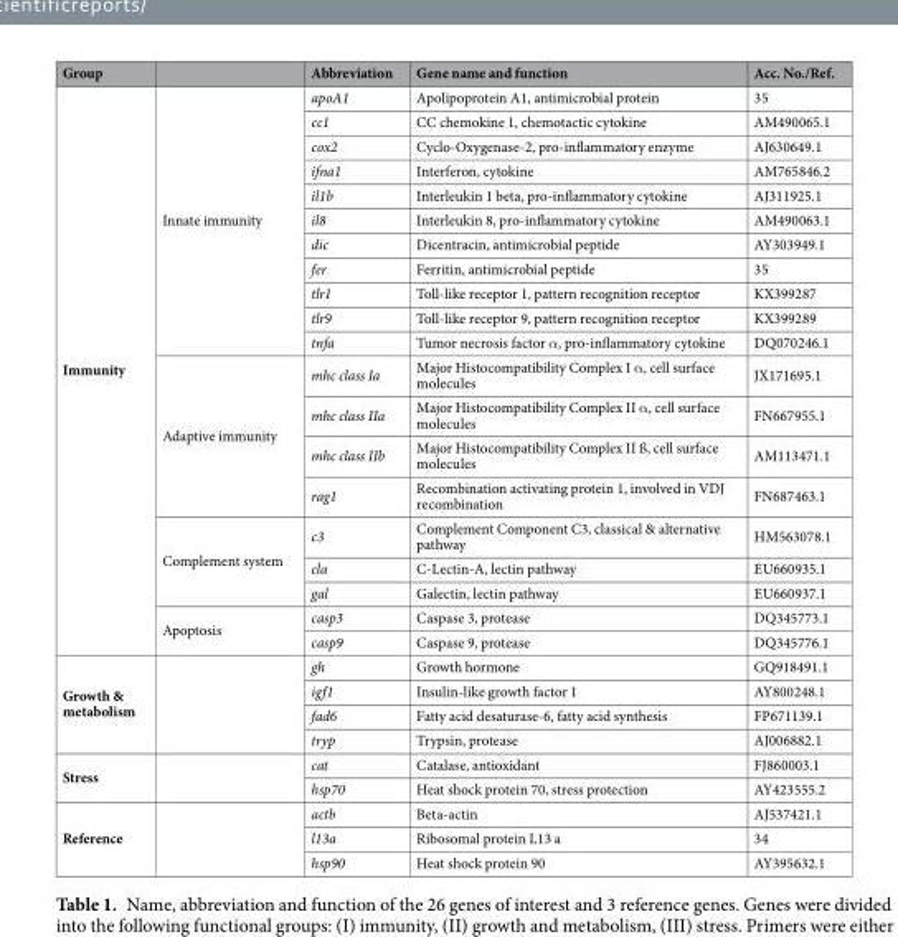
<table><thead><tr><td>Group</td><td></td><td>Abbreviation</td><td>Gene name and function</td><td>Acc. No./Ref.</td></tr></thead><tbody><tr><td rowspan="20">Immunity</td><td rowspan="11">Innate immunity</td><td>apoA1</td><td>Apolipoprotein A1, antimicrobial protein</td><td>35</td></tr><tr><td>cc1</td><td>CC chemokine 1, chemotactic cytokine</td><td>AM490065.1</td></tr><tr><td>cox2</td><td>Cyclo-Oxygenase-2, pro-inflammatory enzyme</td><td>AJ630649.1</td></tr><tr><td>ifna1</td><td>Interferon, cytokine</td><td>AM765846.2</td></tr><tr><td>il1b</td><td>Interleukin 1 beta, pro-inflammatory cytokine</td><td>AJ311925.1</td></tr><tr><td>il8</td><td>Interleukin 8, pro-inflammatory cytokine</td><td>AM490063.1</td></tr><tr><td>dic</td><td>Dicentracin, antimicrobial peptide</td><td>AY303949.1</td></tr><tr><td>fer</td><td>Ferritin, antimicrobial peptide</td><td>35</td></tr><tr><td>tlr1</td><td>Toll-like receptor 1, pattern recognition receptor</td><td>KX399287</td></tr><tr><td>tlr9</td><td>Toll-like receptor 9, pattern recognition receptor</td><td>KX399289</td></tr><tr><td>tnfa</td><td>Tumor necrosis factor α, pro-inflammatory cytokine</td><td>DQ070246.1</td></tr><tr><td rowspan="4">Adaptive immunity</td><td>mhc class Ia</td><td>Major Histocompatibility Complex I α, cell surface molecules</td><td>JX171695.1</td></tr><tr><td>mhc class IIa</td><td>Major Histocompatibility Complex II α, cell surface molecules</td><td>FN667955.1</td></tr><tr><td>mhc class IIb</td><td>Major Histocompatibility Complex II ß, cell surface molecules</td><td>AM113471.1</td></tr><tr><td>rag1</td><td>Recombination activating protein 1, involved in VDJ recombination</td><td>FN687463.1</td></tr><tr><td rowspan="3">Complement system</td><td>c3</td><td>Complement Component C3, classical &amp; alternative pathway</td><td>HM563078.1</td></tr><tr><td>cla</td><td>C-Lectin-A, lectin pathway</td><td>EU660935.1</td></tr><tr><td>gal</td><td>Galectin, lectin pathway</td><td>EU660937.1</td></tr><tr><td rowspan="2">Apoptosis</td><td>casp3</td><td>Caspase 3, protease</td><td>DQ345773.1</td></tr><tr><td>casp9</td><td>Caspase 9, protease</td><td>DQ345776.1</td></tr><tr><td rowspan="4">Growth &amp; metabolism</td><td rowspan="4"></td><td>gh</td><td>Growth hormone</td><td>GQ918491.1</td></tr><tr><td>igf1</td><td>Insulin-like growth factor 1</td><td>AY800248.1</td></tr><tr><td>fad6</td><td>Fatty acid desaturase-6, fatty acid synthesis</td><td>FP671139.1</td></tr><tr><td>tryp</td><td>Trypsin, protease</td><td>AJ006882.1</td></tr><tr><td rowspan="2">Stress</td><td rowspan="2"></td><td>cat</td><td>Catalase, antioxidant</td><td>FJ860003.1</td></tr><tr><td>hsp70</td><td>Heat shock protein 70, stress protection</td><td>AY423555.2</td></tr><tr><td rowspan="3">Reference</td><td rowspan="3"></td><td>actb</td><td>Beta-actin</td><td>AJ537421.1</td></tr><tr><td>l13a</td><td>Ribosomal protein L13 a</td><td>34</td></tr><tr><td>hsp90</td><td>Heat shock protein 90</td><td>AY395632.1</td></tr></tbody></table>